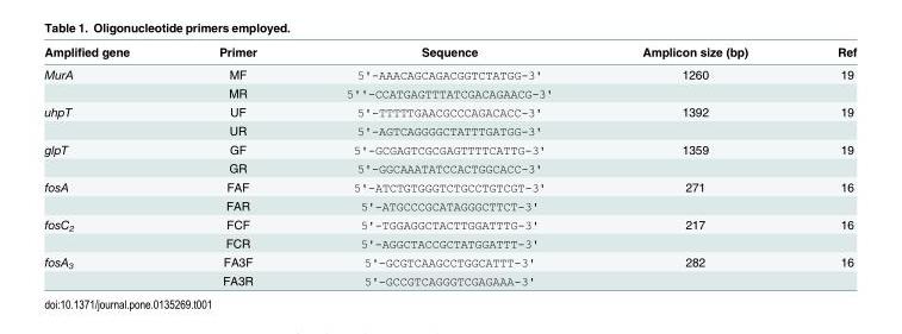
<table><thead><tr><td>Amplified gene</td><td>Primer</td><td>Sequence</td><td>Amplicon size (bp)</td><td>Ref</td></tr></thead><tbody><tr><td rowspan="2">MurA</td><td>MF</td><td>5&#x27;-AAACAGCAGACGGTCTATGG-3&#x27;</td><td>1260</td><td>19</td></tr><tr><td>MR</td><td>5&#x27;&#x27;-CCATGAGTTTATCGACAGAACG-3&#x27;</td><td></td><td></td></tr><tr><td rowspan="2">uhpT</td><td>UF</td><td>5&#x27;-TTTTTGAACGCCCAGACACC-3&#x27;</td><td>1392</td><td>19</td></tr><tr><td>UR</td><td>5&#x27;-AGTCAGGGGCTATTTGATGG-3&#x27;</td><td></td><td></td></tr><tr><td rowspan="2">glpT</td><td>GF</td><td>5&#x27;-GCGAGTCGCGAGTTTTCATTG-3&#x27;</td><td>1359</td><td>19</td></tr><tr><td>GR</td><td>5&#x27;-GGCAAATATCCACTGGCACC-3&#x27;</td><td></td><td></td></tr><tr><td rowspan="2">fosA</td><td>FAF</td><td>5&#x27;-ATCTGTGGGTCTGCCTGTCGT-3&#x27;</td><td>271</td><td>16</td></tr><tr><td>FAR</td><td>5&#x27;-ATGCCCGCATAGGGCTTCT-3&#x27;</td><td></td><td></td></tr><tr><td rowspan="2">fosC<sub>2</sub></td><td>FCF</td><td>5&#x27;-TGGAGGCTACTTGGATTTG-3&#x27;</td><td>217</td><td>16</td></tr><tr><td>FCR</td><td>5&#x27;-AGGCTACCGCTATGGATTT-3&#x27;</td><td></td><td></td></tr><tr><td rowspan="2">fosA<sub>3</sub></td><td>FA3F</td><td>5&#x27;-GCGTCAAGCCTGGCATTT-3&#x27;</td><td>282</td><td>16</td></tr><tr><td>FA3R</td><td>5&#x27;-GCCGTCAGGGTCGAGAAA-3&#x27;</td><td></td><td></td></tr></tbody></table>